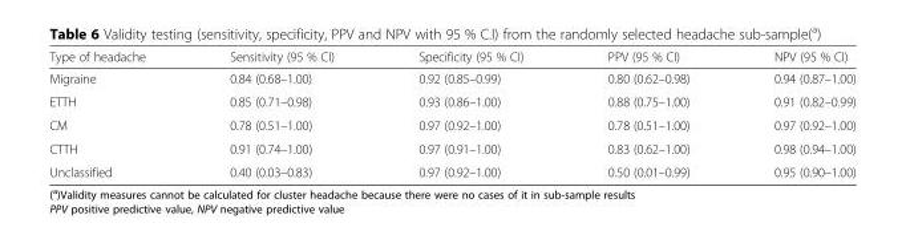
<table><thead><tr><td>Type of headache</td><td>Sensitivity (95 % CI)</td><td>Specificity (95 % CI)</td><td>PPV (95 % CI)</td><td>NPV (95 % CI)</td></tr></thead><tbody><tr><td>Migraine</td><td>0.84 (0.68–1.00)</td><td>0.92 (0.85–0.99)</td><td>0.80 (0.62–0.98)</td><td>0.94 (0.87–1.00)</td></tr><tr><td>ETTH</td><td>0.85 (0.71–0.98)</td><td>0.93 (0.86–1.00)</td><td>0.88 (0.75–1.00)</td><td>0.91 (0.82–0.99)</td></tr><tr><td>CM</td><td>0.78 (0.51–1.00)</td><td>0.97 (0.92–1.00)</td><td>0.78 (0.51–1.00)</td><td>0.97 (0.92–1.00)</td></tr><tr><td>CTTH</td><td>0.91 (0.74–1.00)</td><td>0.97 (0.91–1.00)</td><td>0.83 (0.62–1.00)</td><td>0.98 (0.94–1.00)</td></tr><tr><td>Unclassified</td><td>0.40 (0.03–0.83)</td><td>0.97 (0.92–1.00)</td><td>0.50 (0.01–0.99)</td><td>0.95 (0.90–1.00)</td></tr></tbody></table>